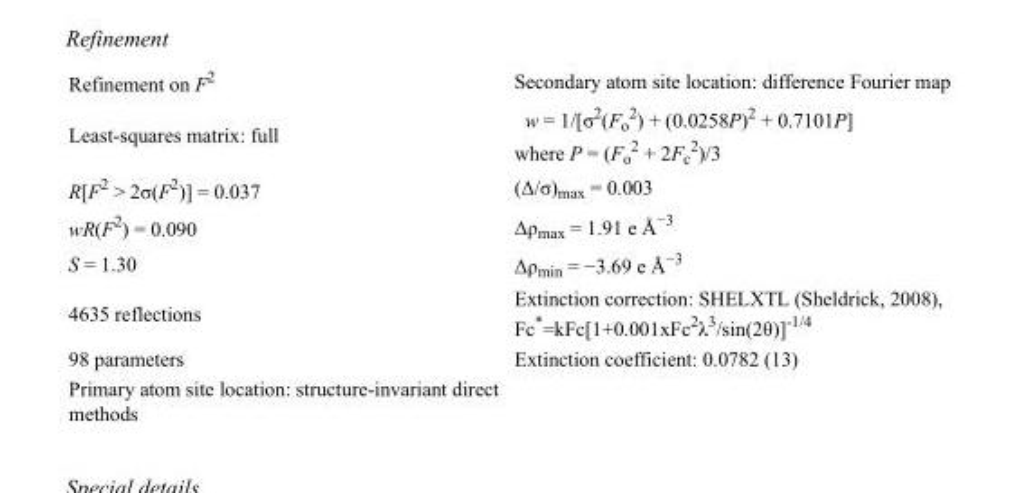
<table><tbody><tr><td>Refinement on F<sup>2</sup></td><td>Secondary atom site location: difference Fourier map</td></tr><tr><td>Least-squares matrix: full</td><td>w = 1/[σ<sup>2</sup>(F<sub>o</sub> <sup>2</sup>) + (0.0258P)<sup>2</sup> + 0.7101P] where P = (F<sub>o</sub> <sup>2</sup> + 2F<sub>c</sub> <sup>2</sup>)/3</td></tr><tr><td>R[F<sup>2</sup> &gt; 2σ(F<sup>2</sup>)] = 0.037</td><td>(Δ/σ)<sub>max</sub> = 0.003</td></tr><tr><td>wR(F<sup>2</sup>) = 0.090</td><td>Δρ<sub>max</sub> = 1.91 e Å<sup>−3</sup></td></tr><tr><td>S = 1.30</td><td>Δρ<sub>min</sub> = −3.69 e Å<sup>−3</sup></td></tr><tr><td>4635 reflections</td><td>Extinction correction: SHELXTL (Sheldrick, 2008), Fc*=kFc[1+0.001xFc<sup>2</sup>λ<sup>3</sup>/sin(2θ)]<sup>-1/4</sup></td></tr><tr><td>98 parameters</td><td>Extinction coefficient: 0.0782 (13)</td></tr><tr><td>Primary atom site location: structure-invariant direct methods</td><td></td></tr></tbody></table>